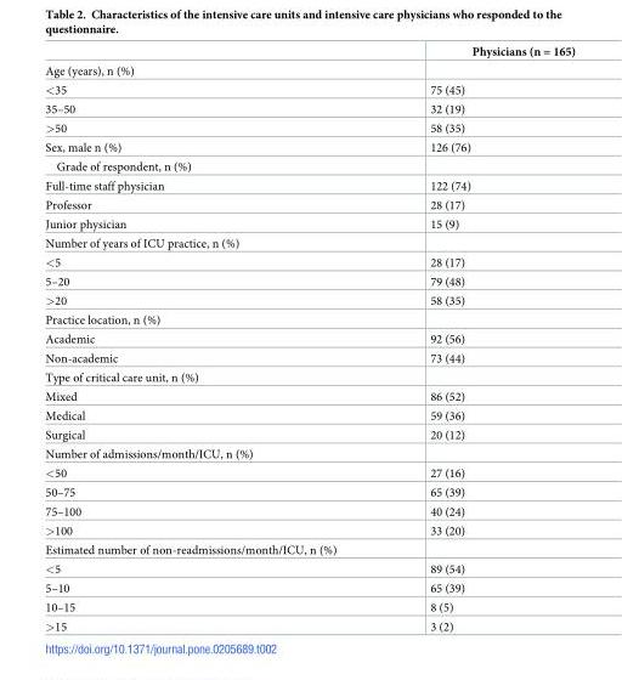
<table><thead><tr><td></td><td>Physicians (n = 165)</td></tr></thead><tbody><tr><td colspan="2">Age (years), n (%)</td></tr><tr><td>&lt;35</td><td>75 (45)</td></tr><tr><td>35–50</td><td>32 (19)</td></tr><tr><td>&gt;50</td><td>58 (35)</td></tr><tr><td>Sex, male n (%)</td><td>126 (76)</td></tr><tr><td colspan="2">Grade of respondent, n (%)</td></tr><tr><td>Full-time staff physician</td><td>122 (74)</td></tr><tr><td>Professor</td><td>28 (17)</td></tr><tr><td>Junior physician</td><td>15 (9)</td></tr><tr><td colspan="2">Number of years of ICU practice, n (%)</td></tr><tr><td>&lt;5</td><td>28 (17)</td></tr><tr><td>5–20</td><td>79 (48)</td></tr><tr><td>&gt;20</td><td>58 (35)</td></tr><tr><td colspan="2">Practice location, n (%)</td></tr><tr><td>Academic</td><td>92 (56)</td></tr><tr><td>Non-academic</td><td>73 (44)</td></tr><tr><td colspan="2">Type of critical care unit, n (%)</td></tr><tr><td>Mixed</td><td>86 (52)</td></tr><tr><td>Medical</td><td>59 (36)</td></tr><tr><td>Surgical</td><td>20 (12)</td></tr><tr><td colspan="2">Number of admissions/month/ICU, n (%)</td></tr><tr><td>&lt;50</td><td>27 (16)</td></tr><tr><td>50–75</td><td>65 (39)</td></tr><tr><td>75–100</td><td>40 (24)</td></tr><tr><td>&gt;100</td><td>33 (20)</td></tr><tr><td colspan="2">Estimated number of non-readmissions/month/ICU, n (%)</td></tr><tr><td>&lt;5</td><td>89 (54)</td></tr><tr><td>5–10</td><td>65 (39)</td></tr><tr><td>10–15</td><td>8 (5)</td></tr><tr><td>&gt;15</td><td>3 (2)</td></tr></tbody></table>